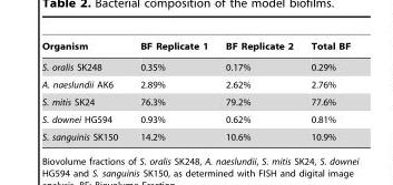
<table><thead><tr><td>Organism</td><td>BF Replicate 1</td><td>BF Replicate 2</td><td>Total BF</td></tr></thead><tbody><tr><td>S. oralis SK248</td><td>0.35%</td><td>0.17%</td><td>0.29%</td></tr><tr><td>A. naeslundii AK6</td><td>2.89%</td><td>2.62%</td><td>2.76%</td></tr><tr><td>S. mitis SK24</td><td>76.3%</td><td>79.2%</td><td>77.6%</td></tr><tr><td>S. downei HG594</td><td>0.93%</td><td>0.62%</td><td>0.81%</td></tr><tr><td>S. sanguinis SK150</td><td>14.2%</td><td>10.6%</td><td>10.9%</td></tr></tbody></table>